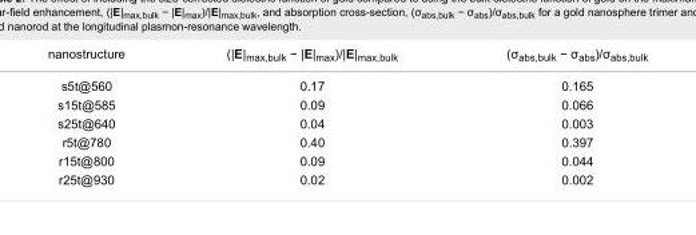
<table><tbody><tr><td>nanostructure</td><td>(|E|<sub>max,bulk</sub> − |E|<sub>max</sub>)/|E|<sub>max,bulk</sub></td><td>(σ<sub>abs,bulk</sub> − σ<sub>abs</sub>)/σ<sub>abs,bulk</sub></td></tr><tr><td>s5t@560</td><td>0.17</td><td>0.165</td></tr><tr><td>s15t@585</td><td>0.09</td><td>0.066</td></tr><tr><td>s25t@640</td><td>0.04</td><td>0.003</td></tr><tr><td>r5t@780</td><td>0.40</td><td>0.397</td></tr><tr><td>r15t@800</td><td>0.09</td><td>0.044</td></tr><tr><td>r25t@930</td><td>0.02</td><td>0.002</td></tr></tbody></table>